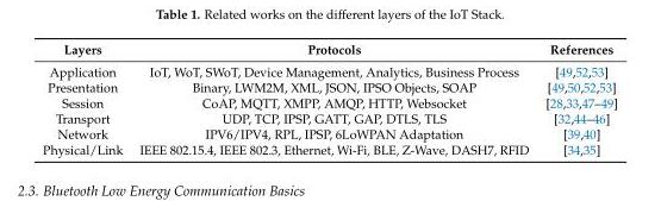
<table><thead><tr><td>Layers</td><td>Protocols</td><td>References</td></tr></thead><tbody><tr><td>Application</td><td>IoT, WoT, SWoT, Device Management, Analytics, Business Process</td><td>[49,52,53]</td></tr><tr><td>Presentation</td><td>Binary, LWM2M, XML, JSON, IPSO Objects, SOAP</td><td>[49,50,52,53]</td></tr><tr><td>Session</td><td>CoAP, MQTT, XMPP, AMQP, HTTP, Websocket</td><td>[28,33,47–49]</td></tr><tr><td>Transport</td><td>UDP, TCP, IPSP, GATT, GAP, DTLS, TLS</td><td>[32,44–46]</td></tr><tr><td>Network</td><td>IPV6/IPV4, RPL, IPSP, 6LoWPAN Adaptation</td><td>[39,40]</td></tr><tr><td>Physical/Link</td><td>IEEE 802.15.4, IEEE 802.3, Ethernet, Wi-Fi, BLE, Z-Wave, DASH7, RFID</td><td>[34,35]</td></tr></tbody></table>